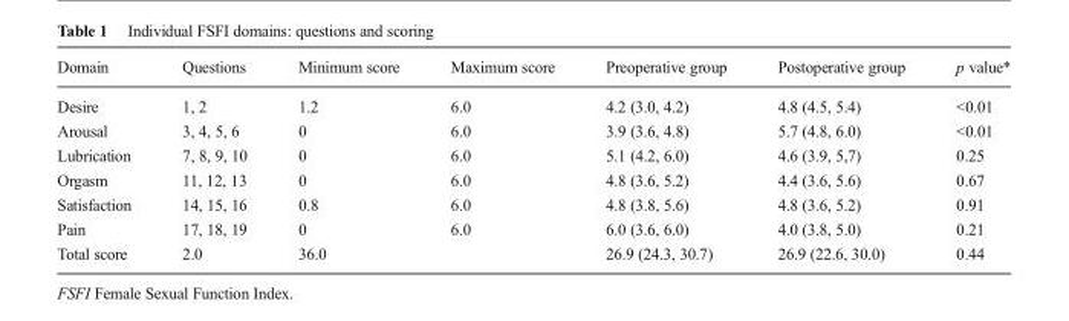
<table><thead><tr><td>Domain</td><td>Questions</td><td>Minimum score</td><td>Maximum score</td><td>Preoperative group</td><td>Postoperative group</td><td>p value*</td></tr></thead><tbody><tr><td>Desire</td><td>1, 2</td><td>1.2</td><td>6.0</td><td>4.2 (3.0, 4.2)</td><td>4.8 (4.5, 5.4)</td><td>&lt;0.01</td></tr><tr><td>Arousal</td><td>3, 4, 5, 6</td><td>0</td><td>6.0</td><td>3.9 (3.6, 4.8)</td><td>5.7 (4.8, 6.0)</td><td>&lt;0.01</td></tr><tr><td>Lubrication</td><td>7, 8, 9, 10</td><td>0</td><td>6.0</td><td>5.1 (4.2, 6.0)</td><td>4.6 (3.9, 5,7)</td><td>0.25</td></tr><tr><td>Orgasm</td><td>11, 12, 13</td><td>0</td><td>6.0</td><td>4.8 (3.6, 5.2)</td><td>4.4 (3.6, 5.6)</td><td>0.67</td></tr><tr><td>Satisfaction</td><td>14, 15, 16</td><td>0.8</td><td>6.0</td><td>4.8 (3.8, 5.6)</td><td>4.8 (3.6, 5.2)</td><td>0.91</td></tr><tr><td>Pain</td><td>17, 18, 19</td><td>0</td><td>6.0</td><td>6.0 (3.6, 6.0)</td><td>4.0 (3.8, 5.0)</td><td>0.21</td></tr><tr><td>Total score</td><td>2.0</td><td>36.0</td><td></td><td>26.9 (24.3, 30.7)</td><td>26.9 (22.6, 30.0)</td><td>0.44</td></tr></tbody></table>